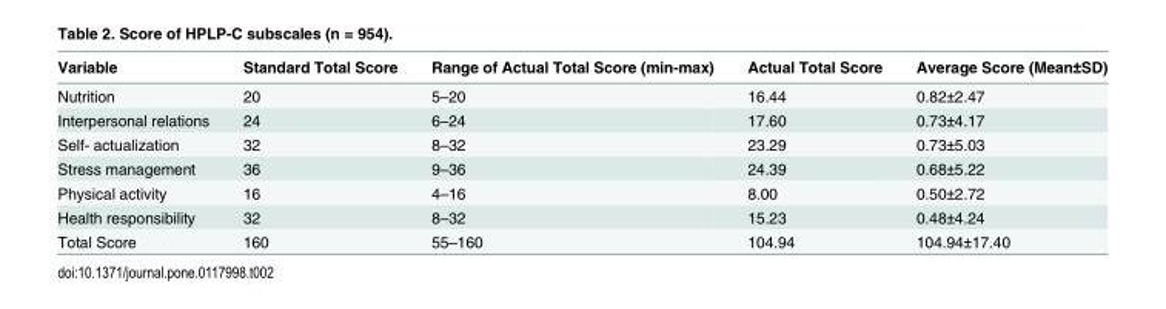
<table><thead><tr><td>Variable</td><td>Standard Total Score</td><td>Range of Actual Total Score (min-max)</td><td>Actual Total Score</td><td>Average Score (Mean±SD)</td></tr></thead><tbody><tr><td>Nutrition</td><td>20</td><td>5–20</td><td>16.44</td><td>0.82±2.47</td></tr><tr><td>Interpersonal relations</td><td>24</td><td>6–24</td><td>17.60</td><td>0.73±4.17</td></tr><tr><td>Self- actualization</td><td>32</td><td>8–32</td><td>23.29</td><td>0.73±5.03</td></tr><tr><td>Stress management</td><td>36</td><td>9–36</td><td>24.39</td><td>0.68±5.22</td></tr><tr><td>Physical activity</td><td>16</td><td>4–16</td><td>8.00</td><td>0.50±2.72</td></tr><tr><td>Health responsibility</td><td>32</td><td>8–32</td><td>15.23</td><td>0.48±4.24</td></tr><tr><td>Total Score</td><td>160</td><td>55–160</td><td>104.94</td><td>104.94±17.40</td></tr></tbody></table>